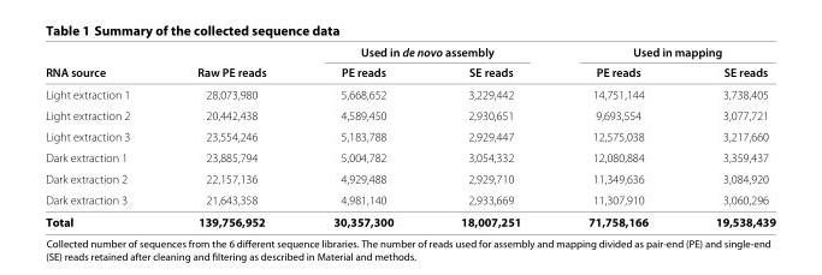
<table><thead><tr><td rowspan="2">RNA source</td><td rowspan="2">Raw PE reads</td><td colspan="2">Used in de novo assembly</td><td colspan="2">Used in mapping</td></tr><tr><td>PE reads</td><td>SE reads</td><td>PE reads</td><td>SE reads</td></tr></thead><tbody><tr><td>Light extraction 1</td><td>28,073,980</td><td>5,668,652</td><td>3,229,442</td><td>14,751,144</td><td>3,738,405</td></tr><tr><td>Light extraction 2</td><td>20,442,438</td><td>4,589,450</td><td>2,930,651</td><td>9,693,554</td><td>3,077,721</td></tr><tr><td>Light extraction 3</td><td>23,554,246</td><td>5,183,788</td><td>2,929,447</td><td>12,575,038</td><td>3,217,660</td></tr><tr><td>Dark extraction 1</td><td>23,885,794</td><td>5,004,782</td><td>3,054,332</td><td>12,080,884</td><td>3,359,437</td></tr><tr><td>Dark extraction 2</td><td>22,157,136</td><td>4,929,488</td><td>2,929,710</td><td>11,349,636</td><td>3,084,920</td></tr><tr><td>Dark extraction 3</td><td>21,643,358</td><td>4,981,140</td><td>2,933,669</td><td>11,307,910</td><td>3,060,296</td></tr><tr><td>Total</td><td>139,756,952</td><td>30,357,300</td><td>18,007,251</td><td>71,758,166</td><td>19,538,439</td></tr></tbody></table>